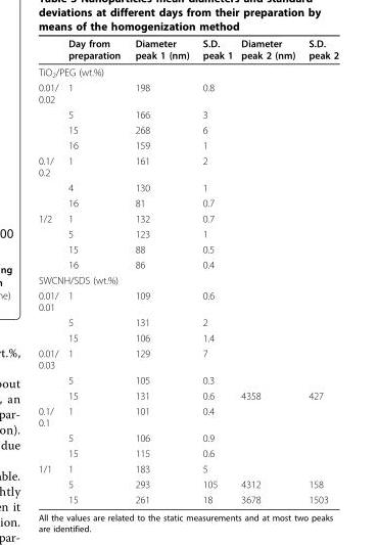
<table><thead><tr><td></td><td>Day from preparation</td><td>Diameter peak 1 (nm)</td><td>S.D. peak 1</td><td>Diameter peak 2 (nm)</td><td>S.D. peak 2</td></tr></thead><tbody><tr><td colspan="6">TiO<sub>2</sub>/PEG (wt.%)</td></tr><tr><td rowspan="4">0.01/ 0.02</td><td>1</td><td>198</td><td>0.8</td><td></td><td></td></tr><tr><td>5</td><td>166</td><td>3</td><td></td><td></td></tr><tr><td>15</td><td>268</td><td>6</td><td></td><td></td></tr><tr><td>16</td><td>159</td><td>1</td><td></td><td></td></tr><tr><td rowspan="3">0.1/ 0.2</td><td>1</td><td>161</td><td>2</td><td></td><td></td></tr><tr><td>4</td><td>130</td><td>1</td><td></td><td></td></tr><tr><td>16</td><td>81</td><td>0.7</td><td></td><td></td></tr><tr><td rowspan="4">1/2</td><td>1</td><td>132</td><td>0.7</td><td></td><td></td></tr><tr><td>5</td><td>123</td><td>1</td><td></td><td></td></tr><tr><td>15</td><td>88</td><td>0.5</td><td></td><td></td></tr><tr><td>16</td><td>86</td><td>0.4</td><td></td><td></td></tr><tr><td colspan="6">SWCNH/SDS (wt.%)</td></tr><tr><td rowspan="3">0.01/ 0.01</td><td>1</td><td>109</td><td>0.6</td><td></td><td></td></tr><tr><td>5</td><td>131</td><td>2</td><td></td><td></td></tr><tr><td>15</td><td>106</td><td>1.4</td><td></td><td></td></tr><tr><td rowspan="3">0.01/ 0.03</td><td>1</td><td>129</td><td>7</td><td></td><td></td></tr><tr><td>5</td><td>105</td><td>0.3</td><td></td><td></td></tr><tr><td>15</td><td>131</td><td>0.6</td><td>4358</td><td>427</td></tr><tr><td rowspan="3">0.1/ 0.1</td><td>1</td><td>101</td><td>0.4</td><td></td><td></td></tr><tr><td>5</td><td>106</td><td>0.9</td><td></td><td></td></tr><tr><td>15</td><td>115</td><td>0.6</td><td></td><td></td></tr><tr><td rowspan="3">1/1</td><td>1</td><td>183</td><td>5</td><td></td><td></td></tr><tr><td>5</td><td>293</td><td>105</td><td>4312</td><td>158</td></tr><tr><td>15</td><td>261</td><td>18</td><td>3678</td><td>1503</td></tr></tbody></table>